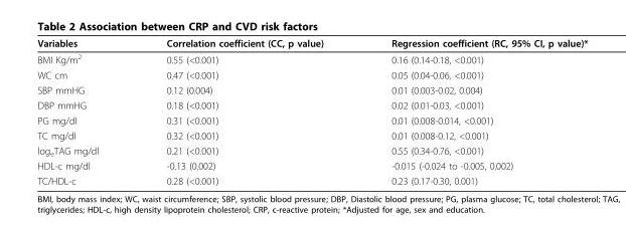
<table><thead><tr><td>Variables</td><td>Correlation coefficient (CC, p value)</td><td>Regression coefficient (RC, 95% CI, p value)*</td></tr></thead><tbody><tr><td>BMI Kg/m2</td><td>0.55 (&lt;0.001)</td><td>0.16 (0.14-0.18, &lt;0.001)</td></tr><tr><td>WC cm</td><td>0.47 (&lt;0.001)</td><td>0.05 (0.04-0.06, &lt;0.001)</td></tr><tr><td>SBP mmHG</td><td>0.12 (0.004)</td><td>0.01 (0.003-0.02, 0.004)</td></tr><tr><td>DBP mmHG</td><td>0.18 (&lt;0.001)</td><td>0.02 (0.01-0.03, &lt;0.001)</td></tr><tr><td>PG mg/dl</td><td>0.31 (&lt;0.001)</td><td>0.01 (0.008-0.014, &lt;0.001)</td></tr><tr><td>TC mg/dl</td><td>0.32 (&lt;0.001)</td><td>0.01 (0.008-0.12, &lt;0.001)</td></tr><tr><td>logeTAG mg/dl</td><td>0.21 (&lt;0.001)</td><td>0.55 (0.34-0.76, &lt;0.001)</td></tr><tr><td>HDL-c mg/dl</td><td>-0.13 (0.002)</td><td>-0.015 (-0.024 to -0.005, 0.002)</td></tr><tr><td>TC/HDL-c</td><td>0.28 (&lt;0.001)</td><td>0.23 (0.17-0.30, 0.001)</td></tr></tbody></table>